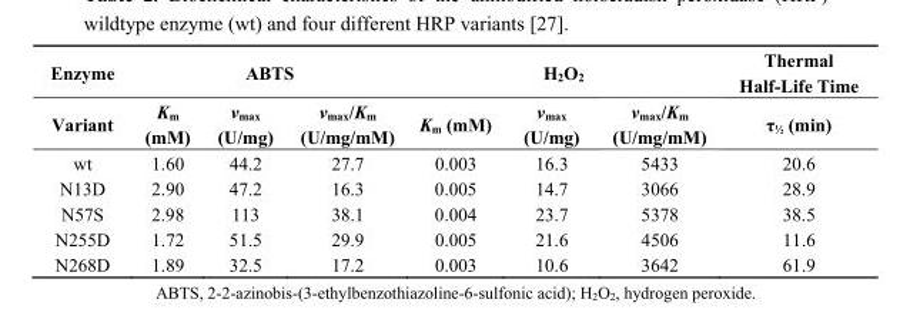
<table><thead><tr><td rowspan="2">Enzyme Variant</td><td colspan="3">ABTS</td><td colspan="3">H<sub>2</sub>O<sub>2</sub></td><td rowspan="2">Thermal Half-Life Time τ<sub>½</sub> (min)</td></tr><tr><td>K<sub>m</sub> (mM)</td><td>v<sub>max</sub> (U/mg)</td><td>v<sub>max</sub>/K<sub>m</sub> (U/mg/mM)</td><td>K<sub>m</sub> (mM)</td><td>v<sub>max</sub> (U/mg)</td><td>v<sub>max</sub>/K<sub>m</sub> (U/mg/mM)</td></tr></thead><tbody><tr><td>wt</td><td>1.60</td><td>44.2</td><td>27.7</td><td>0.003</td><td>16.3</td><td>5433</td><td>20.6</td></tr><tr><td>N13D</td><td>2.90</td><td>47.2</td><td>16.3</td><td>0.005</td><td>14.7</td><td>3066</td><td>28.9</td></tr><tr><td>N57S</td><td>2.98</td><td>113</td><td>38.1</td><td>0.004</td><td>23.7</td><td>5378</td><td>38.5</td></tr><tr><td>N255D</td><td>1.72</td><td>51.5</td><td>29.9</td><td>0.005</td><td>21.6</td><td>4506</td><td>11.6</td></tr><tr><td>N268D</td><td>1.89</td><td>32.5</td><td>17.2</td><td>0.003</td><td>10.6</td><td>3642</td><td>61.9</td></tr></tbody></table>